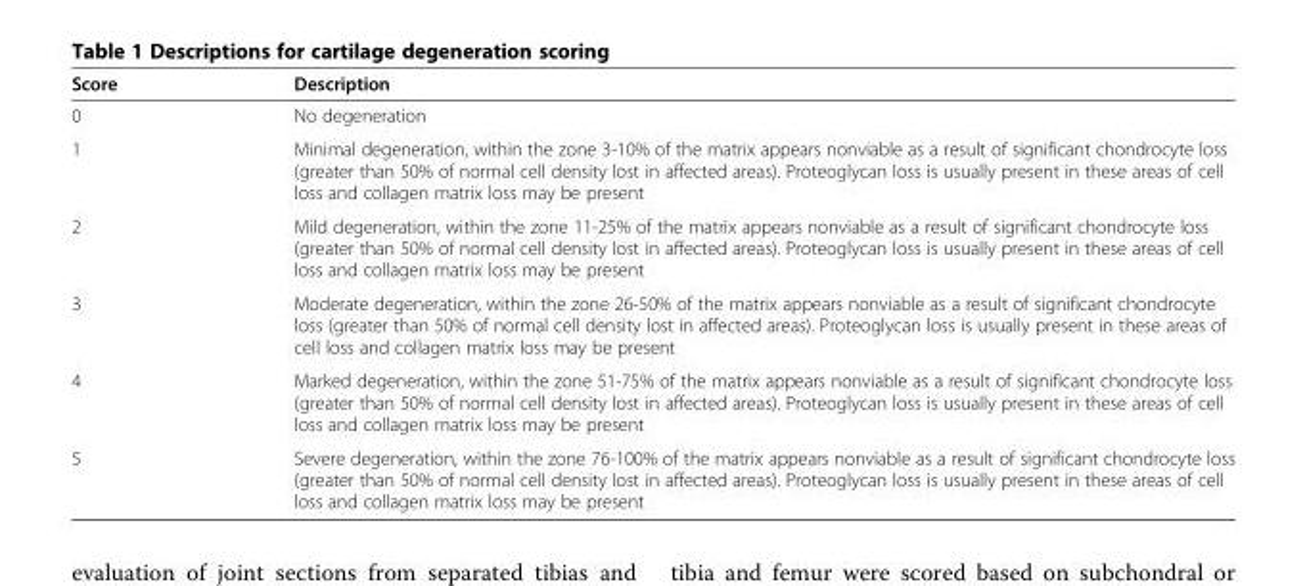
<table><thead><tr><td>Score</td><td>Description</td></tr></thead><tbody><tr><td>0</td><td>No degeneration</td></tr><tr><td>1</td><td>Minimal degeneration, within the zone 3-10% of the matrix appears nonviable as a result of significant chondrocyte loss (greater than 50% of normal cell density lost in affected areas). Proteoglycan loss is usually present in these areas of cell loss and collagen matrix loss may be present</td></tr><tr><td>2</td><td>Mild degeneration, within the zone 11-25% of the matrix appears nonviable as a result of significant chondrocyte loss (greater than 50% of normal cell density lost in affected areas). Proteoglycan loss is usually present in these areas of cell loss and collagen matrix loss may be present</td></tr><tr><td>3</td><td>Moderate degeneration, within the zone 26-50% of the matrix appears nonviable as a result of significant chondrocyte loss (greater than 50% of normal cell density lost in affected areas). Proteoglycan loss is usually present in these areas of cell loss and collagen matrix loss may be present</td></tr><tr><td>4</td><td>Marked degeneration, within the zone 51-75% of the matrix appears nonviable as a result of significant chondrocyte loss (greater than 50% of normal cell density lost in affected areas). Proteoglycan loss is usually present in these areas of cell loss and collagen matrix loss may be present</td></tr><tr><td>5</td><td>Severe degeneration, within the zone 76-100% of the matrix appears nonviable as a result of significant chondrocyte loss (greater than 50% of normal cell density lost in affected areas). Proteoglycan loss is usually present in these areas of cell loss and collagen matrix loss may be present</td></tr></tbody></table>